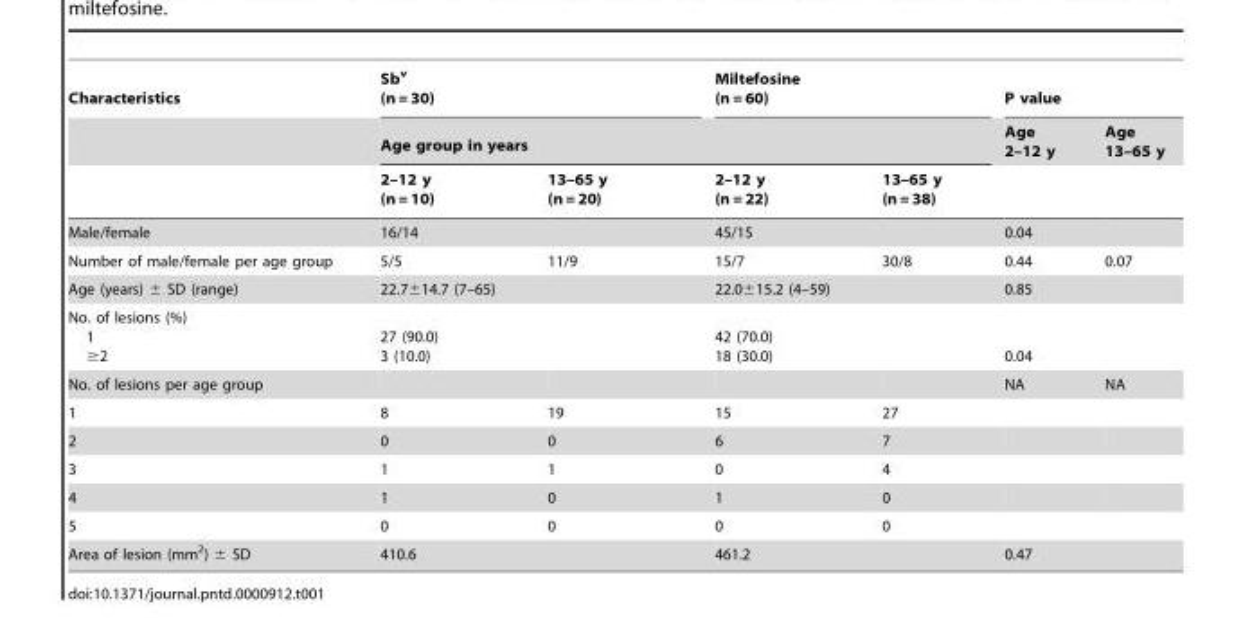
<table><thead><tr><td rowspan="3">Characteristics</td><td colspan="2">Sb<sup>v</sup> (n = 30)</td><td colspan="2">Miltefosine (n = 60)</td><td colspan="2">P value</td></tr><tr><td colspan="4">Age group in years</td><td rowspan="2">Age 2–12 y</td><td rowspan="2">Age 13–65 y</td></tr><tr><td>2–12 y (n = 10)</td><td>13–65 y (n = 20)</td><td>2–12 y (n = 22)</td><td>13–65 y (n = 38)</td></tr></thead><tbody><tr><td>Male/female</td><td colspan="2">16/14</td><td colspan="2">45/15</td><td colspan="2">0.04</td></tr><tr><td>Number of male/female per age group</td><td>5/5</td><td>11/9</td><td>15/7</td><td>30/8</td><td>0.44</td><td>0.07</td></tr><tr><td>Age (years) ± SD (range)</td><td colspan="2">22.7±14.7 (7–65)</td><td colspan="2">22.0±15.2 (4–59)</td><td colspan="2">0.85</td></tr><tr><td>No. of lesions (%) 1 ≥2</td><td colspan="2">27 (90.0) 3 (10.0)</td><td colspan="2">42 (70.0) 18 (30.0)</td><td colspan="2">0.04</td></tr><tr><td>No. of lesions per age group</td><td></td><td></td><td></td><td></td><td>NA</td><td>NA</td></tr><tr><td>1</td><td>8</td><td>19</td><td>15</td><td>27</td><td></td><td></td></tr><tr><td>2</td><td>0</td><td>0</td><td>6</td><td>7</td><td></td><td></td></tr><tr><td>3</td><td>1</td><td>1</td><td>0</td><td>4</td><td></td><td></td></tr><tr><td>4</td><td>1</td><td>0</td><td>1</td><td>0</td><td></td><td></td></tr><tr><td>5</td><td>0</td><td>0</td><td>0</td><td>0</td><td></td><td></td></tr><tr><td>Area of lesion (mm<sup>2</sup>) ± SD</td><td colspan="2">410.6</td><td colspan="2">461.2</td><td colspan="2">0.47</td></tr></tbody></table>